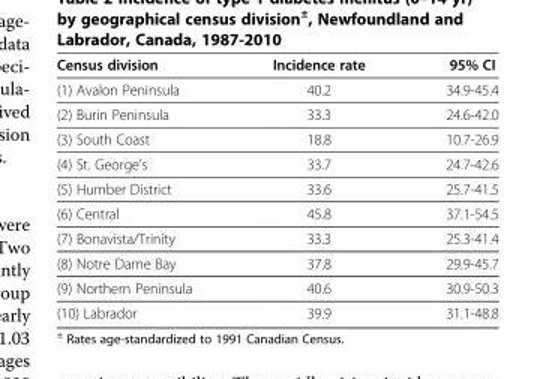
<table><thead><tr><td>Census division</td><td>Incidence rate</td><td>95% CI</td></tr></thead><tbody><tr><td>(1) Avalon Peninsula</td><td>40.2</td><td>34.9-45.4</td></tr><tr><td>(2) Burin Peninsula</td><td>33.3</td><td>24.6-42.0</td></tr><tr><td>(3) South Coast</td><td>18.8</td><td>10.7-26.9</td></tr><tr><td>(4) St. George’s</td><td>33.7</td><td>24.7-42.6</td></tr><tr><td>(5) Humber District</td><td>33.6</td><td>25.7-41.5</td></tr><tr><td>(6) Central</td><td>45.8</td><td>37.1-54.5</td></tr><tr><td>(7) Bonavista/Trinity</td><td>33.3</td><td>25.3-41.4</td></tr><tr><td>(8) Notre Dame Bay</td><td>37.8</td><td>29.9-45.7</td></tr><tr><td>(9) Northern Peninsula</td><td>40.6</td><td>30.9-50.3</td></tr><tr><td>(10) Labrador</td><td>39.9</td><td>31.1-48.8</td></tr></tbody></table>